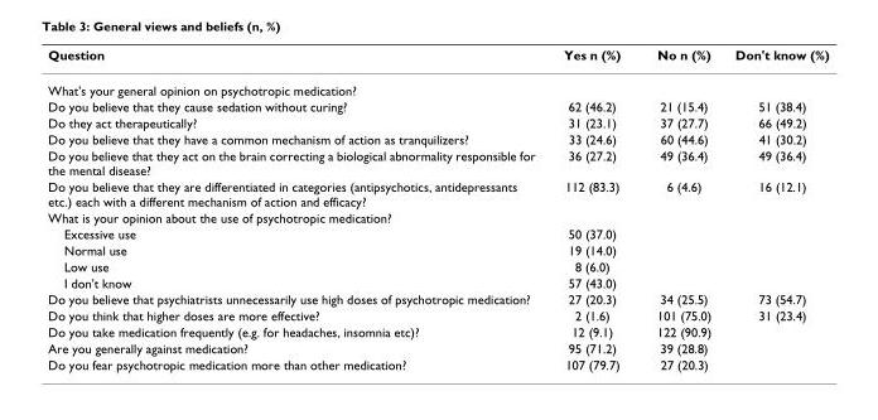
<table><thead><tr><td>Question</td><td>Yes n (%)</td><td>No n (%)</td><td>Don&#x27;t know (%)</td></tr></thead><tbody><tr><td colspan="4">What&#x27;s your general opinion on psychotropic medication?</td></tr><tr><td>Do you believe that they cause sedation without curing?</td><td>62 (46.2)</td><td>21 (15.4)</td><td>51 (38.4)</td></tr><tr><td>Do they act therapeutically?</td><td>31 (23.1)</td><td>37 (27.7)</td><td>66 (49.2)</td></tr><tr><td>Do you believe that they have a common mechanism of action as tranquilizers?</td><td>33 (24.6)</td><td>60 (44.6)</td><td>41 (30.2)</td></tr><tr><td>Do you believe that they act on the brain correcting a biological abnormality responsible for the mental disease?</td><td>36 (27.2)</td><td>49 (36.4)</td><td>49 (36.4)</td></tr><tr><td>Do you believe that they are differentiated in categories (antipsychotics, antidepressants etc.) each with a different mechanism of action and efficacy?</td><td>112 (83.3)</td><td>6 (4.6)</td><td>16 (12.1)</td></tr><tr><td colspan="4">What is your opinion about the use of psychotropic medication?</td></tr><tr><td>Excessive use</td><td>50 (37.0)</td><td></td><td></td></tr><tr><td>Normal use</td><td>19 (14.0)</td><td></td><td></td></tr><tr><td>Low use</td><td>8 (6.0)</td><td></td><td></td></tr><tr><td>I don&#x27;t know</td><td>57 (43.0)</td><td></td><td></td></tr><tr><td>Do you believe that psychiatrists unnecessarily use high doses of psychotropic medication?</td><td>27 (20.3)</td><td>34 (25.5)</td><td>73 (54.7)</td></tr><tr><td>Do you think that higher doses are more effective?</td><td>2 (1.6)</td><td>101 (75.0)</td><td>31 (23.4)</td></tr><tr><td>Do you take medication frequently (e.g. for headaches, insomnia etc)?</td><td>12 (9.1)</td><td>122 (90.9)</td><td></td></tr><tr><td>Are you generally against medication?</td><td>95 (71.2)</td><td>39 (28.8)</td><td></td></tr><tr><td>Do you fear psychotropic medication more than other medication?</td><td>107 (79.7)</td><td>27 (20.3)</td><td></td></tr></tbody></table>